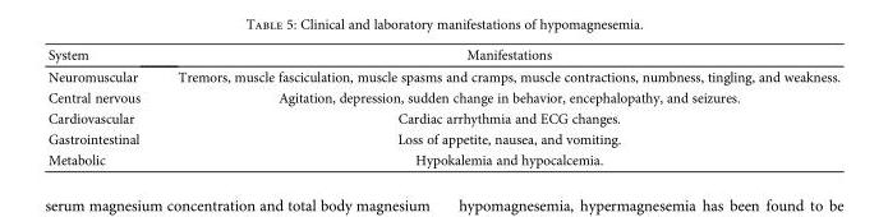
<table><thead><tr><td>System</td><td>Manifestations</td></tr></thead><tbody><tr><td>Neuromuscular</td><td>Tremors, muscle fasciculation, muscle spasms and cramps, muscle contractions, numbness, tingling, and weakness.</td></tr><tr><td>Central nervous</td><td>Agitation, depression, sudden change in behavior, encephalopathy, and seizures.</td></tr><tr><td>Cardiovascular</td><td>Cardiac arrhythmia and ECG changes.</td></tr><tr><td>Gastrointestinal</td><td>Loss of appetite, nausea, and vomiting.</td></tr><tr><td>Metabolic</td><td>Hypokalemia and hypocalcemia.</td></tr></tbody></table>